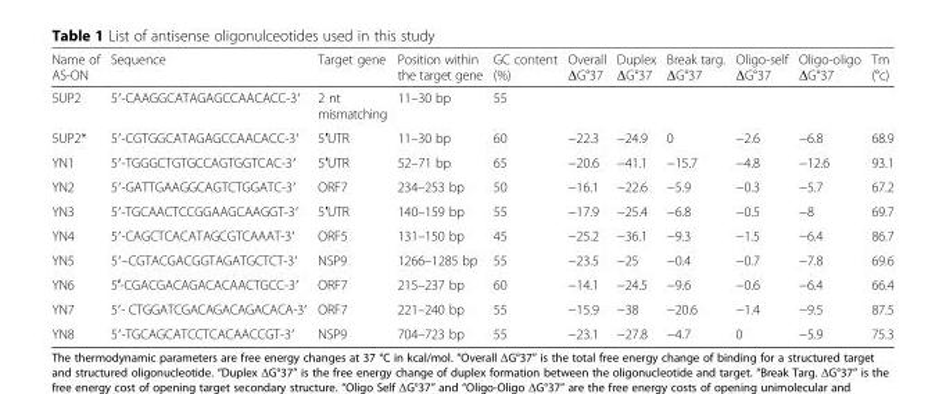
<table><thead><tr><td>Name of AS-ON</td><td>Sequence</td><td>Target gene</td><td>Position within the target gene</td><td>GC content (%)</td><td>Overall ΔG°37</td><td>Duplex ΔG°37</td><td>Break targ. ΔG°37</td><td>Oligo-self ΔG°37</td><td>Oligo-oligo ΔG°37</td><td>Tm (°c)</td></tr></thead><tbody><tr><td>5UP2</td><td>5′-CAAGGCATAGAGCCAACACC-3′</td><td>2 nt mismatching</td><td>11–30 bp</td><td>55</td><td></td><td></td><td></td><td></td><td></td><td></td></tr><tr><td>5UP2*</td><td>5′-CGTGGCATAGAGCCAACACC-3′</td><td>5′UTR</td><td>11–30 bp</td><td>60</td><td>−22.3</td><td>−24.9</td><td>0</td><td>−2.6</td><td>−6.8</td><td>68.9</td></tr><tr><td>YN1</td><td>5′-TGGGCTGTGCCAGTGGTCAC-3′</td><td>5′UTR</td><td>52–71 bp</td><td>65</td><td>−20.6</td><td>−41.1</td><td>−15.7</td><td>−4.8</td><td>−12.6</td><td>93.1</td></tr><tr><td>YN2</td><td>5′-GATTGAAGGCAGTCTGGATC-3′</td><td>ORF7</td><td>234–253 bp</td><td>50</td><td>−16.1</td><td>−22.6</td><td>−5.9</td><td>−0.3</td><td>−5.7</td><td>67.2</td></tr><tr><td>YN3</td><td>5′-TGCAACTCCGGAAGCAAGGT-3′</td><td>5′UTR</td><td>140–159 bp</td><td>55</td><td>−17.9</td><td>−25.4</td><td>−6.8</td><td>−0.5</td><td>−8</td><td>69.7</td></tr><tr><td>YN4</td><td>5′-CAGCTCACATAGCGTCAAAT-3′</td><td>ORF5</td><td>131–150 bp</td><td>45</td><td>−25.2</td><td>−36.1</td><td>−9.3</td><td>−1.5</td><td>−6.4</td><td>86.7</td></tr><tr><td>YN5</td><td>5′–CGTACGACGGTAGATGCTCT-3′</td><td>NSP9</td><td>1266–1285 bp</td><td>55</td><td>−23.5</td><td>−25</td><td>−0.4</td><td>−0.7</td><td>−7.8</td><td>69.6</td></tr><tr><td>YN6</td><td>5′-CGACGACAGACACAACTGCC-3′</td><td>ORF7</td><td>215–237 bp</td><td>60</td><td>−14.1</td><td>−24.5</td><td>−9.6</td><td>−0.6</td><td>−6.4</td><td>66.4</td></tr><tr><td>YN7</td><td>5′- CTGGATCGACAGACAGACACA-3′</td><td>ORF7</td><td>221–240 bp</td><td>55</td><td>−15.9</td><td>−38</td><td>−20.6</td><td>−1.4</td><td>−9.5</td><td>87.5</td></tr><tr><td>YN8</td><td>5′-TGCAGCATCCTCACAACCGT-3′</td><td>NSP9</td><td>704–723 bp</td><td>55</td><td>−23.1</td><td>−27.8</td><td>−4.7</td><td>0</td><td>−5.9</td><td>75.3</td></tr></tbody></table>